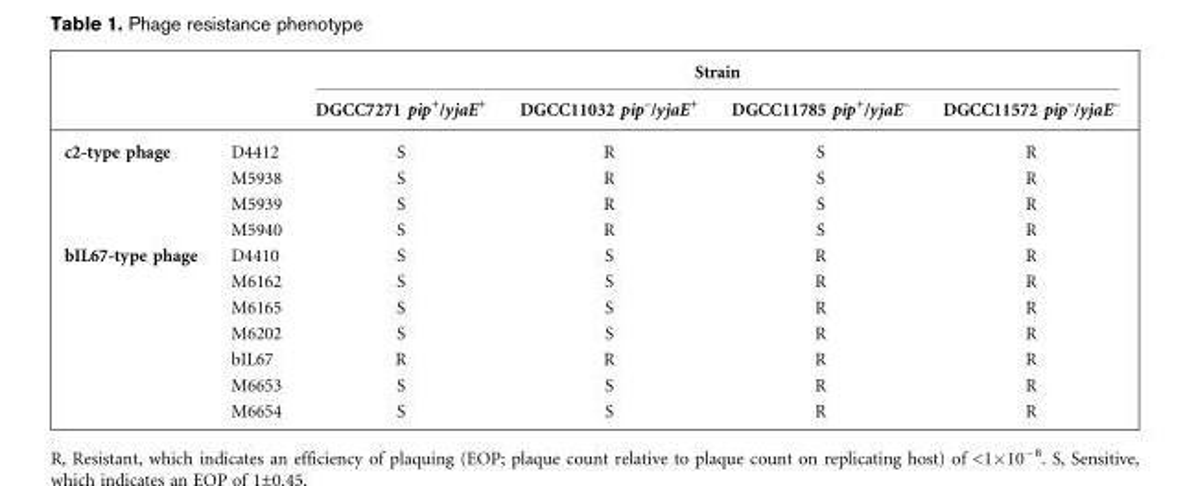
<table><thead><tr><td rowspan="2"></td><td rowspan="2"></td><td colspan="4">Strain</td></tr><tr><td>DGCC7271 pip<sup>+</sup>/yjaE<sup>+</sup></td><td>DGCC11032 pip<sup>–</sup>/yjaE<sup>+</sup></td><td>DGCC11785 pip<sup>+</sup>/yjaE<sup>–</sup></td><td>DGCC11572 pip<sup>–</sup>/yjaE<sup>–</sup></td></tr></thead><tbody><tr><td rowspan="4">c2-type phage</td><td>D4412</td><td>S</td><td>R</td><td>S</td><td>R</td></tr><tr><td>M5938</td><td>S</td><td>R</td><td>S</td><td>R</td></tr><tr><td>M5939</td><td>S</td><td>R</td><td>S</td><td>R</td></tr><tr><td>M5940</td><td>S</td><td>R</td><td>S</td><td>R</td></tr><tr><td rowspan="7">bIL67-type phage</td><td>D4410</td><td>S</td><td>S</td><td>R</td><td>R</td></tr><tr><td>M6162</td><td>S</td><td>S</td><td>R</td><td>R</td></tr><tr><td>M6165</td><td>S</td><td>S</td><td>R</td><td>R</td></tr><tr><td>M6202</td><td>S</td><td>S</td><td>R</td><td>R</td></tr><tr><td>bIL67</td><td>R</td><td>R</td><td>R</td><td>R</td></tr><tr><td>M6653</td><td>S</td><td>S</td><td>R</td><td>R</td></tr><tr><td>M6654</td><td>S</td><td>S</td><td>R</td><td>R</td></tr></tbody></table>